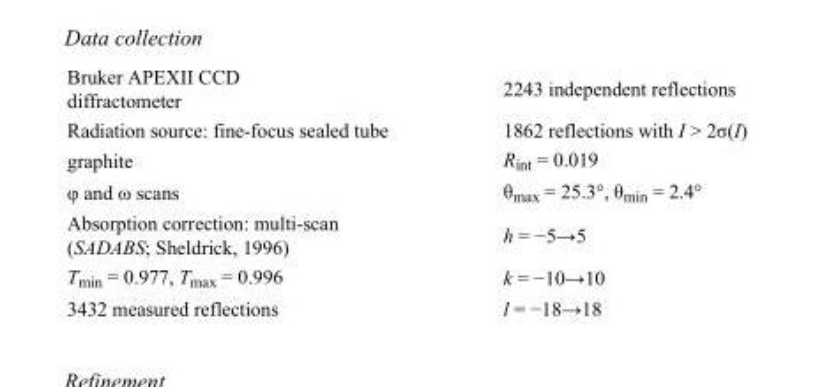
<table><tbody><tr><td>Bruker APEXII CCD diffractometer</td><td>2243 independent reflections</td></tr><tr><td>Radiation source: fine-focus sealed tube</td><td>1862 reflections with I &gt; 2σ(I)</td></tr><tr><td>graphite</td><td>R<sub>int</sub> = 0.019</td></tr><tr><td>φ and ω scans</td><td>θ<sub>max</sub> = 25.3°, θ<sub>min</sub> = 2.4°</td></tr><tr><td>Absorption correction: multi-scan (SADABS; Sheldrick, 1996)</td><td>h = −5→5</td></tr><tr><td>T<sub>min</sub> = 0.977, T<sub>max</sub> = 0.996</td><td>k = −10→10</td></tr><tr><td>3432 measured reflections</td><td>l = −18→18</td></tr></tbody></table>